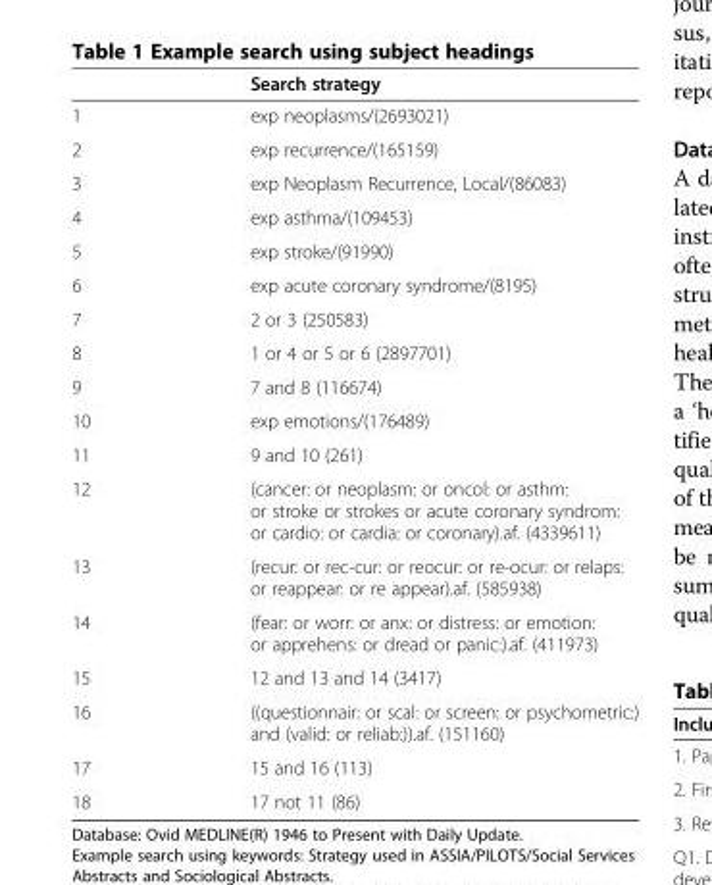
<table><thead><tr><td></td><td>Search strategy</td></tr></thead><tbody><tr><td>1</td><td>exp neoplasms/(2693021)</td></tr><tr><td>2</td><td>exp recurrence/(165159)</td></tr><tr><td>3</td><td>exp Neoplasm Recurrence, Local/(86083)</td></tr><tr><td>4</td><td>exp asthma/(109453)</td></tr><tr><td>5</td><td>exp stroke/(91990)</td></tr><tr><td>6</td><td>exp acute coronary syndrome/(8195)</td></tr><tr><td>7</td><td>2 or 3 (250583)</td></tr><tr><td>8</td><td>1 or 4 or 5 or 6 (2897701)</td></tr><tr><td>9</td><td>7 and 8 (116674)</td></tr><tr><td>10</td><td>exp emotions/(176489)</td></tr><tr><td>11</td><td>9 and 10 (261)</td></tr><tr><td>12</td><td>(cancer: or neoplasm: or oncol: or asthm: or stroke or strokes or acute coronary syndrom: or cardio: or cardia: or coronary).af. (4339611)</td></tr><tr><td>13</td><td>(recur: or rec-cur: or reocur: or re-ocur: or relaps: or reappear: or re appear).af. (585938)</td></tr><tr><td>14</td><td>(fear: or worr: or anx: or distress: or emotion: or apprehens: or dread or panic:).af. (411973)</td></tr><tr><td>15</td><td>12 and 13 and 14 (3417)</td></tr><tr><td>16</td><td>((questionnair: or scal: or screen: or psychometric:) and (valid: or reliab:)).af. (151160)</td></tr><tr><td>17</td><td>15 and 16 (113)</td></tr><tr><td>18</td><td>17 not 11 (86)</td></tr></tbody></table>